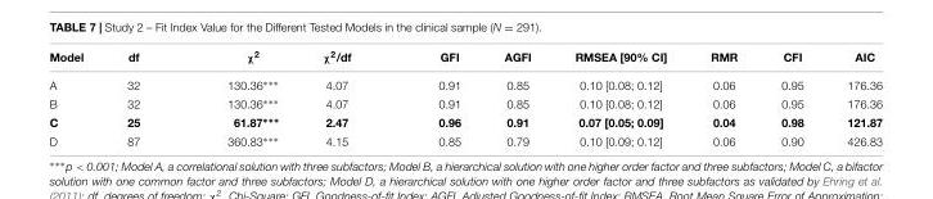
<table><thead><tr><td>Model</td><td>df</td><td>χ<sup>2</sup></td><td>χ<sup>2</sup>/df</td><td>GFI</td><td>AGFI</td><td>RMSEA [90% CI]</td><td>RMR</td><td>CFI</td><td>AIC</td></tr></thead><tbody><tr><td>A</td><td>32</td><td>130.36∗∗∗</td><td>4.07</td><td>0.91</td><td>0.85</td><td>0.10 [0.08; 0.12]</td><td>0.06</td><td>0.95</td><td>176.36</td></tr><tr><td>B</td><td>32</td><td>130.36∗∗∗</td><td>4.07</td><td>0.91</td><td>0.85</td><td>0.10 [0.08; 0.12]</td><td>0.06</td><td>0.95</td><td>176.36</td></tr><tr><td>C</td><td>25</td><td>61.87∗∗∗</td><td>2.47</td><td>0.96</td><td>0.91</td><td>0.07 [0.05; 0.09]</td><td>0.04</td><td>0.98</td><td>121.87</td></tr><tr><td>D</td><td>87</td><td>360.83∗∗∗</td><td>4.15</td><td>0.85</td><td>0.79</td><td>0.10 [0.09; 0.12]</td><td>0.06</td><td>0.90</td><td>426.83</td></tr></tbody></table>